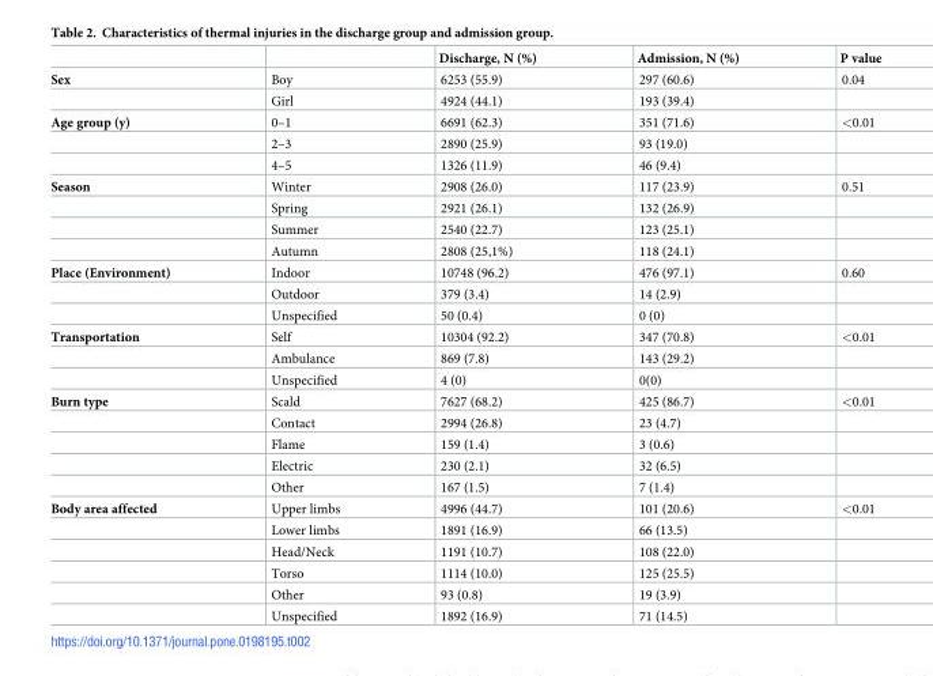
<table><thead><tr><td></td><td></td><td>Discharge, N (%)</td><td>Admission, N (%)</td><td>P value</td></tr></thead><tbody><tr><td rowspan="2">Sex</td><td>Boy</td><td>6253 (55.9)</td><td>297 (60.6)</td><td>0.04</td></tr><tr><td>Girl</td><td>4924 (44.1)</td><td>193 (39.4)</td><td></td></tr><tr><td rowspan="3">Age group (y)</td><td>0–1</td><td>6691 (62.3)</td><td>351 (71.6)</td><td>&lt;0.01</td></tr><tr><td>2–3</td><td>2890 (25.9)</td><td>93 (19.0)</td><td></td></tr><tr><td>4–5</td><td>1326 (11.9)</td><td>46 (9.4)</td><td></td></tr><tr><td rowspan="4">Season</td><td>Winter</td><td>2908 (26.0)</td><td>117 (23.9)</td><td>0.51</td></tr><tr><td>Spring</td><td>2921 (26.1)</td><td>132 (26.9)</td><td></td></tr><tr><td>Summer</td><td>2540 (22.7)</td><td>123 (25.1)</td><td></td></tr><tr><td>Autumn</td><td>2808 (25,1%)</td><td>118 (24.1)</td><td></td></tr><tr><td rowspan="3">Place (Environment)</td><td>Indoor</td><td>10748 (96.2)</td><td>476 (97.1)</td><td>0.60</td></tr><tr><td>Outdoor</td><td>379 (3.4)</td><td>14 (2.9)</td><td></td></tr><tr><td>Unspecified</td><td>50 (0.4)</td><td>0 (0)</td><td></td></tr><tr><td rowspan="3">Transportation</td><td>Self</td><td>10304 (92.2)</td><td>347 (70.8)</td><td>&lt;0.01</td></tr><tr><td>Ambulance</td><td>869 (7.8)</td><td>143 (29.2)</td><td></td></tr><tr><td>Unspecified</td><td>4 (0)</td><td>0(0)</td><td></td></tr><tr><td rowspan="5">Burn type</td><td>Scald</td><td>7627 (68.2)</td><td>425 (86.7)</td><td>&lt;0.01</td></tr><tr><td>Contact</td><td>2994 (26.8)</td><td>23 (4.7)</td><td></td></tr><tr><td>Flame</td><td>159 (1.4)</td><td>3 (0.6)</td><td></td></tr><tr><td>Electric</td><td>230 (2.1)</td><td>32 (6.5)</td><td></td></tr><tr><td>Other</td><td>167 (1.5)</td><td>7 (1.4)</td><td></td></tr><tr><td rowspan="6">Body area affected</td><td>Upper limbs</td><td>4996 (44.7)</td><td>101 (20.6)</td><td>&lt;0.01</td></tr><tr><td>Lower limbs</td><td>1891 (16.9)</td><td>66 (13.5)</td><td></td></tr><tr><td>Head/Neck</td><td>1191 (10.7)</td><td>108 (22.0)</td><td></td></tr><tr><td>Torso</td><td>1114 (10.0)</td><td>125 (25.5)</td><td></td></tr><tr><td>Other</td><td>93 (0.8)</td><td>19 (3.9)</td><td></td></tr><tr><td>Unspecified</td><td>1892 (16.9)</td><td>71 (14.5)</td><td></td></tr></tbody></table>